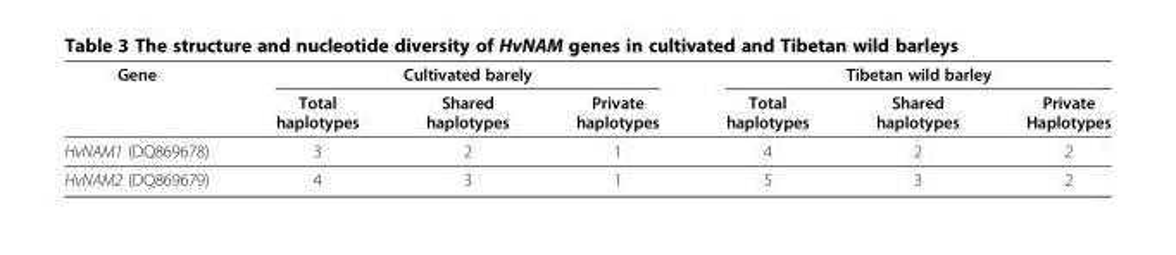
<table><thead><tr><td rowspan="2">Gene</td><td colspan="3">Cultivated barely</td><td colspan="3">Tibetan wild barley</td></tr><tr><td>Total haplotypes</td><td>Shared haplotypes</td><td>Private haplotypes</td><td>Total haplotypes</td><td>Shared haplotypes</td><td>Private Haplotypes</td></tr></thead><tbody><tr><td>HvNAM1 (DQ869678)</td><td>3</td><td>2</td><td>1</td><td>4</td><td>2</td><td>2</td></tr><tr><td>HvNAM2 (DQ869679)</td><td>4</td><td>3</td><td>1</td><td>5</td><td>3</td><td>2</td></tr></tbody></table>